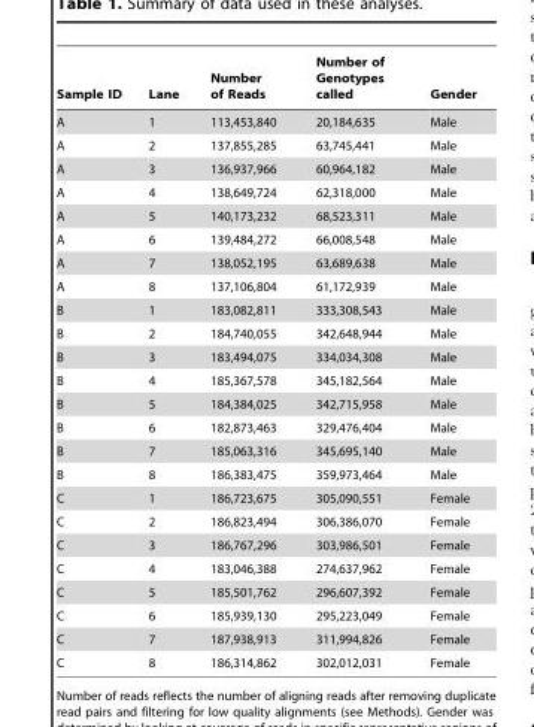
<table><thead><tr><td>Sample ID</td><td>Lane</td><td>Number of Reads</td><td>Number of Genotypes called</td><td>Gender</td></tr></thead><tbody><tr><td>A</td><td>1</td><td>113,453,840</td><td>20,184,635</td><td>Male</td></tr><tr><td>A</td><td>2</td><td>137,855,285</td><td>63,745,441</td><td>Male</td></tr><tr><td>A</td><td>3</td><td>136,937,966</td><td>60,964,182</td><td>Male</td></tr><tr><td>A</td><td>4</td><td>138,649,724</td><td>62,318,000</td><td>Male</td></tr><tr><td>A</td><td>5</td><td>140,173,232</td><td>68,523,311</td><td>Male</td></tr><tr><td>A</td><td>6</td><td>139,484,272</td><td>66,008,548</td><td>Male</td></tr><tr><td>A</td><td>7</td><td>138,052,195</td><td>63,689,638</td><td>Male</td></tr><tr><td>A</td><td>8</td><td>137,106,804</td><td>61,172,939</td><td>Male</td></tr><tr><td>B</td><td>1</td><td>183,082,811</td><td>333,308,543</td><td>Male</td></tr><tr><td>B</td><td>2</td><td>184,740,055</td><td>342,648,944</td><td>Male</td></tr><tr><td>B</td><td>3</td><td>183,494,075</td><td>334,034,308</td><td>Male</td></tr><tr><td>B</td><td>4</td><td>185,367,578</td><td>345,182,564</td><td>Male</td></tr><tr><td>B</td><td>5</td><td>184,384,025</td><td>342,715,958</td><td>Male</td></tr><tr><td>B</td><td>6</td><td>182,873,463</td><td>329,476,404</td><td>Male</td></tr><tr><td>B</td><td>7</td><td>185,063,316</td><td>345,695,140</td><td>Male</td></tr><tr><td>B</td><td>8</td><td>186,383,475</td><td>359,973,464</td><td>Male</td></tr><tr><td>C</td><td>1</td><td>186,723,675</td><td>305,090,551</td><td>Female</td></tr><tr><td>C</td><td>2</td><td>186,823,494</td><td>306,386,070</td><td>Female</td></tr><tr><td>C</td><td>3</td><td>186,767,296</td><td>303,986,501</td><td>Female</td></tr><tr><td>C</td><td>4</td><td>183,046,388</td><td>274,637,962</td><td>Female</td></tr><tr><td>C</td><td>5</td><td>185,501,762</td><td>296,607,392</td><td>Female</td></tr><tr><td>C</td><td>6</td><td>185,939,130</td><td>295,223,049</td><td>Female</td></tr><tr><td>C</td><td>7</td><td>187,938,913</td><td>311,994,826</td><td>Female</td></tr><tr><td>C</td><td>8</td><td>186,314,862</td><td>302,012,031</td><td>Female</td></tr></tbody></table>